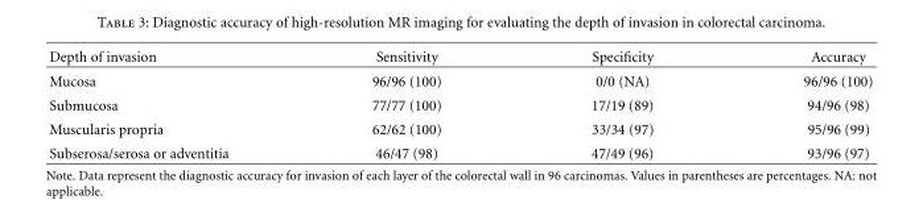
<table><thead><tr><td>Depth of invasion</td><td>Sensitivity</td><td>Specificity</td><td>Accuracy</td></tr></thead><tbody><tr><td>Mucosa</td><td>96/96 (100)</td><td>0/0 (NA)</td><td>96/96 (100)</td></tr><tr><td>Submucosa</td><td>77/77 (100)</td><td>17/19 (89)</td><td>94/96 (98)</td></tr><tr><td>Muscularis propria</td><td>62/62 (100)</td><td>33/34 (97)</td><td>95/96 (99)</td></tr><tr><td>Subserosa/serosa or adventitia</td><td>46/47 (98)</td><td>47/49 (96)</td><td>93/96 (97)</td></tr></tbody></table>